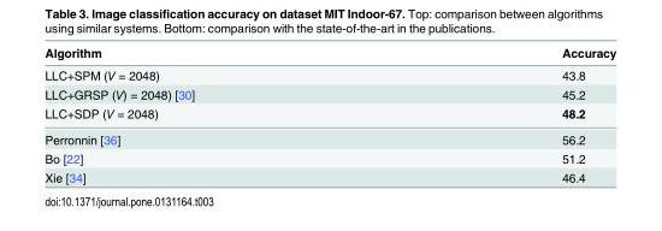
<table><thead><tr><td>Algorithm</td><td>Accuracy</td></tr></thead><tbody><tr><td>LLC+SPM (V = 2048)</td><td>43.8</td></tr><tr><td>LLC+GRSP (V) = 2048) [30]</td><td>45.2</td></tr><tr><td>LLC+SDP (V = 2048)</td><td>48.2</td></tr><tr><td>Perronnin [36]</td><td>56.2</td></tr><tr><td>Bo [22]</td><td>51.2</td></tr><tr><td>Xie [34]</td><td>46.4</td></tr></tbody></table>